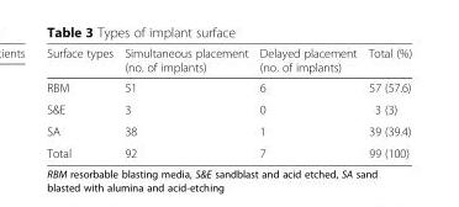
<table><thead><tr><td>Surface types</td><td>Simultaneous placement (no. of implants)</td><td>Delayed placement (no. of implants)</td><td>Total (%)</td></tr></thead><tbody><tr><td>RBM</td><td>51</td><td>6</td><td>57 (57.6)</td></tr><tr><td>S&amp;E</td><td>3</td><td>0</td><td>3 (3)</td></tr><tr><td>SA</td><td>38</td><td>1</td><td>39 (39.4)</td></tr><tr><td>Total</td><td>92</td><td>7</td><td>99 (100)</td></tr></tbody></table>